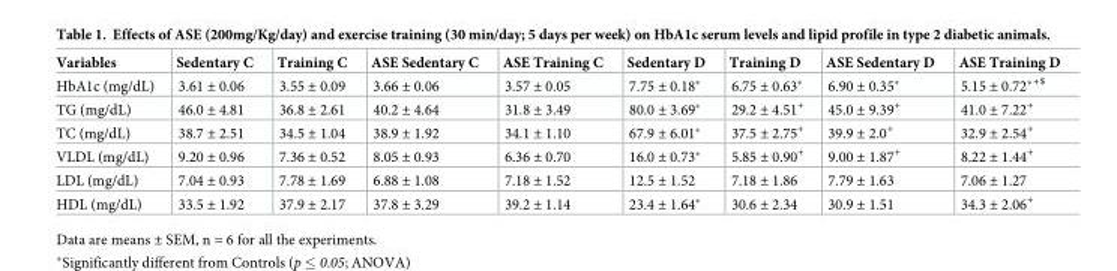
<table><thead><tr><td>Variables</td><td>Sedentary C</td><td>Training C</td><td>ASE Sedentary C</td><td>ASE Training C</td><td>Sedentary D</td><td>Training D</td><td>ASE Sedentary D</td><td>ASE Training D</td></tr></thead><tbody><tr><td>HbA1c (mg/dL)</td><td>3.61 ± 0.06</td><td>3.55 ± 0.09</td><td>3.66 ± 0.06</td><td>3.57 ± 0.05</td><td>7.75 ± 0.18*</td><td>6.75 ± 0.63*</td><td>6.90 ± 0.35*</td><td>5.15 ± 0.72*<sup>+$</sup></td></tr><tr><td>TG (mg/dL)</td><td>46.0 ± 4.81</td><td>36.8 ± 2.61</td><td>40.2 ± 4.64</td><td>31.8 ± 3.49</td><td>80.0 ± 3.69*</td><td>29.2 ± 4.51<sup>+</sup></td><td>45.0 ± 9.39<sup>+</sup></td><td>41.0 ± 7.22<sup>+</sup></td></tr><tr><td>TC (mg/dL)</td><td>38.7 ± 2.51</td><td>34.5 ± 1.04</td><td>38.9 ± 1.92</td><td>34.1 ± 1.10</td><td>67.9 ± 6.01*</td><td>37.5 ± 2.75<sup>+</sup></td><td>39.9 ± 2.0<sup>+</sup></td><td>32.9 ± 2.54<sup>+</sup></td></tr><tr><td>VLDL (mg/dL)</td><td>9.20 ± 0.96</td><td>7.36 ± 0.52</td><td>8.05 ± 0.93</td><td>6.36 ± 0.70</td><td>16.0 ± 0.73*</td><td>5.85 ± 0.90<sup>+</sup></td><td>9.00 ± 1.87<sup>+</sup></td><td>8.22 ± 1.44<sup>+</sup></td></tr><tr><td>LDL (mg/dL)</td><td>7.04 ± 0.93</td><td>7.78 ± 1.69</td><td>6.88 ± 1.08</td><td>7.18 ± 1.52</td><td>12.5 ± 1.52</td><td>7.18 ± 1.86</td><td>7.79 ± 1.63</td><td>7.06 ± 1.27</td></tr><tr><td>HDL (mg/dL)</td><td>33.5 ± 1.92</td><td>37.9 ± 2.17</td><td>37.8 ± 3.29</td><td>39.2 ± 1.14</td><td>23.4 ± 1.64*</td><td>30.6 ± 2.34</td><td>30.9 ± 1.51</td><td>34.3 ± 2.06<sup>+</sup></td></tr></tbody></table>